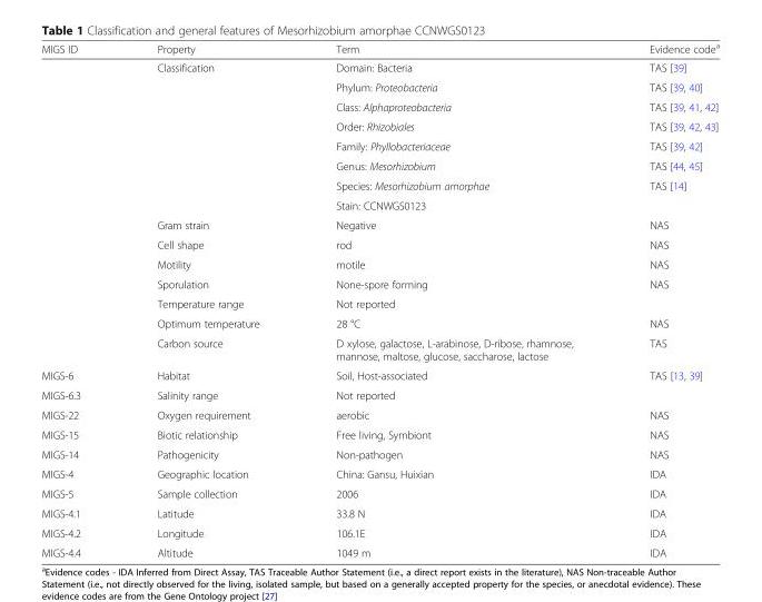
<table><thead><tr><td>MIGS ID</td><td>Property</td><td>Term</td><td>Evidence code<sup>a</sup></td></tr></thead><tbody><tr><td></td><td>Classification</td><td>Domain: Bacteria</td><td>TAS [39]</td></tr><tr><td></td><td></td><td>Phylum: Proteobacteria</td><td>TAS [39, 40]</td></tr><tr><td></td><td></td><td>Class: Alphaproteobacteria</td><td>TAS [39, 41, 42]</td></tr><tr><td></td><td></td><td>Order: Rhizobiales</td><td>TAS [39, 42, 43]</td></tr><tr><td></td><td></td><td>Family: Phyllobacteriaceae</td><td>TAS [39, 42]</td></tr><tr><td></td><td></td><td>Genus: Mesorhizobium</td><td>TAS [44, 45]</td></tr><tr><td></td><td></td><td>Species: Mesorhizobium amorphae</td><td>TAS [14]</td></tr><tr><td></td><td></td><td>Stain: CCNWGS0123</td><td></td></tr><tr><td></td><td>Gram strain</td><td>Negative</td><td>NAS</td></tr><tr><td></td><td>Cell shape</td><td>rod</td><td>NAS</td></tr><tr><td></td><td>Motility</td><td>motile</td><td>NAS</td></tr><tr><td></td><td>Sporulation</td><td>None-spore forming</td><td>NAS</td></tr><tr><td></td><td>Temperature range</td><td>Not reported</td><td></td></tr><tr><td></td><td>Optimum temperature</td><td>28 °C</td><td>NAS</td></tr><tr><td></td><td>Carbon source</td><td>D xylose, galactose, L-arabinose, D-ribose, rhamnose, mannose, maltose, glucose, saccharose, lactose</td><td>TAS</td></tr><tr><td>MIGS-6</td><td>Habitat</td><td>Soil, Host-associated</td><td>TAS [13, 39]</td></tr><tr><td>MIGS-6.3</td><td>Salinity range</td><td>Not reported</td><td></td></tr><tr><td>MIGS-22</td><td>Oxygen requirement</td><td>aerobic</td><td>NAS</td></tr><tr><td>MIGS-15</td><td>Biotic relationship</td><td>Free living, Symbiont</td><td>NAS</td></tr><tr><td>MIGS-14</td><td>Pathogenicity</td><td>Non-pathogen</td><td>NAS</td></tr><tr><td>MIGS-4</td><td>Geographic location</td><td>China: Gansu, Huixian</td><td>IDA</td></tr><tr><td>MIGS-5</td><td>Sample collection</td><td>2006</td><td>IDA</td></tr><tr><td>MIGS-4.1</td><td>Latitude</td><td>33.8 N</td><td>IDA</td></tr><tr><td>MIGS-4.2</td><td>Longitude</td><td>106.1E</td><td>IDA</td></tr><tr><td>MIGS-4.4</td><td>Altitude</td><td>1049 m</td><td>IDA</td></tr></tbody></table>